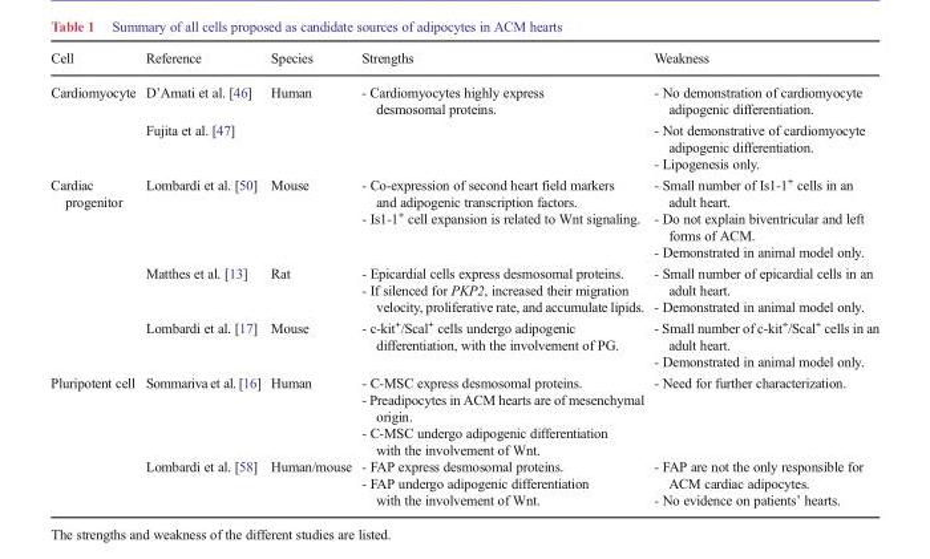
<table><thead><tr><td>Cell</td><td>Reference</td><td>Species</td><td>Strengths</td><td>Weakness</td></tr></thead><tbody><tr><td rowspan="2">Cardiomyocyte</td><td>D’Amati et al. [46]</td><td rowspan="2">Human</td><td rowspan="2">- Cardiomyocytes highly express desmosomal proteins.</td><td>- No demonstration of cardiomyocyte adipogenic differentiation.</td></tr><tr><td>Fujita et al. [47]</td><td>- Not demonstrative of cardiomyocyte adipogenic differentiation. - Lipogenesis only.</td></tr><tr><td rowspan="3">Cardiac progenitor</td><td>Lombardi et al. [50]</td><td>Mouse</td><td>- Co-expression of second heart field markers and adipogenic transcription factors. - Is1-1<sup>+</sup> cell expansion is related to Wnt signaling.</td><td>- Small number of Is1-1<sup>+</sup> cells in an adult heart. - Do not explain biventricular and left forms of ACM. - Demonstrated in animal model only.</td></tr><tr><td>Matthes et al. [13]</td><td>Rat</td><td>- Epicardial cells express desmosomal proteins. - If silenced for PKP2, increased their migration velocity, proliferative rate, and accumulate lipids.</td><td>- Small number of epicardial cells in an adult heart. - Demonstrated in animal model only.</td></tr><tr><td>Lombardi et al. [17]</td><td>Mouse</td><td>- c-kit<sup>+</sup>/Scal<sup>+</sup> cells undergo adipogenic differentiation, with the involvement of PG.</td><td>- Small number of c-kit<sup>+</sup>/Scal<sup>+</sup> cells in an adult heart. - Demonstrated in animal model only.</td></tr><tr><td rowspan="2">Pluripotent cell</td><td>Sommariva et al. [16]</td><td>Human</td><td>- C-MSC express desmosomal proteins. - Preadipocytes in ACM hearts are of mesenchymal origin. - C-MSC undergo adipogenic differentiation with the involvement of Wnt.</td><td>- Need for further characterization.</td></tr><tr><td>Lombardi et al. [58]</td><td>Human/mouse</td><td>- FAP express desmosomal proteins. - FAP undergo adipogenic differentiation with the involvement of Wnt.</td><td>- FAP are not the only responsible for ACM cardiac adipocytes. - No evidence on patients’ hearts.</td></tr></tbody></table>